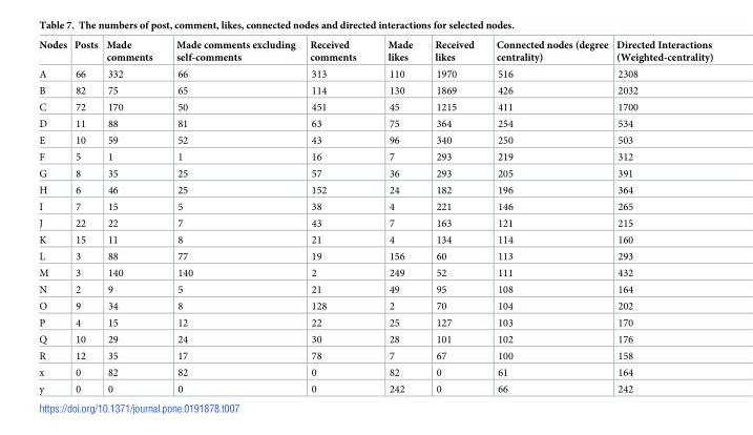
<table><thead><tr><td>Nodes</td><td>Posts</td><td>Made comments</td><td>Made comments excluding self-comments</td><td>Received comments</td><td>Made likes</td><td>Received likes</td><td>Connected nodes (degree centrality)</td><td>Directed Interactions (Weighted-centrality)</td></tr></thead><tbody><tr><td>A</td><td>66</td><td>332</td><td>66</td><td>313</td><td>110</td><td>1970</td><td>516</td><td>2308</td></tr><tr><td>B</td><td>82</td><td>75</td><td>65</td><td>114</td><td>130</td><td>1869</td><td>426</td><td>2032</td></tr><tr><td>C</td><td>72</td><td>170</td><td>50</td><td>451</td><td>45</td><td>1215</td><td>411</td><td>1700</td></tr><tr><td>D</td><td>11</td><td>88</td><td>81</td><td>63</td><td>75</td><td>364</td><td>254</td><td>534</td></tr><tr><td>E</td><td>10</td><td>59</td><td>52</td><td>43</td><td>96</td><td>340</td><td>250</td><td>503</td></tr><tr><td>F</td><td>5</td><td>1</td><td>1</td><td>16</td><td>7</td><td>293</td><td>219</td><td>312</td></tr><tr><td>G</td><td>8</td><td>35</td><td>25</td><td>57</td><td>36</td><td>293</td><td>205</td><td>391</td></tr><tr><td>H</td><td>6</td><td>46</td><td>25</td><td>152</td><td>24</td><td>182</td><td>196</td><td>364</td></tr><tr><td>I</td><td>7</td><td>15</td><td>5</td><td>38</td><td>4</td><td>221</td><td>146</td><td>265</td></tr><tr><td>J</td><td>22</td><td>22</td><td>7</td><td>43</td><td>7</td><td>163</td><td>121</td><td>215</td></tr><tr><td>K</td><td>15</td><td>11</td><td>8</td><td>21</td><td>4</td><td>134</td><td>114</td><td>160</td></tr><tr><td>L</td><td>3</td><td>88</td><td>77</td><td>19</td><td>156</td><td>60</td><td>113</td><td>293</td></tr><tr><td>M</td><td>3</td><td>140</td><td>140</td><td>2</td><td>249</td><td>52</td><td>111</td><td>432</td></tr><tr><td>N</td><td>2</td><td>9</td><td>5</td><td>21</td><td>49</td><td>95</td><td>108</td><td>164</td></tr><tr><td>O</td><td>9</td><td>34</td><td>8</td><td>128</td><td>2</td><td>70</td><td>104</td><td>202</td></tr><tr><td>P</td><td>4</td><td>15</td><td>12</td><td>22</td><td>25</td><td>127</td><td>103</td><td>170</td></tr><tr><td>Q</td><td>10</td><td>29</td><td>24</td><td>30</td><td>28</td><td>101</td><td>102</td><td>176</td></tr><tr><td>R</td><td>12</td><td>35</td><td>17</td><td>78</td><td>7</td><td>67</td><td>100</td><td>158</td></tr><tr><td>x</td><td>0</td><td>82</td><td>82</td><td>0</td><td>82</td><td>0</td><td>61</td><td>164</td></tr><tr><td>y</td><td>0</td><td>0</td><td>0</td><td>0</td><td>242</td><td>0</td><td>66</td><td>242</td></tr></tbody></table>